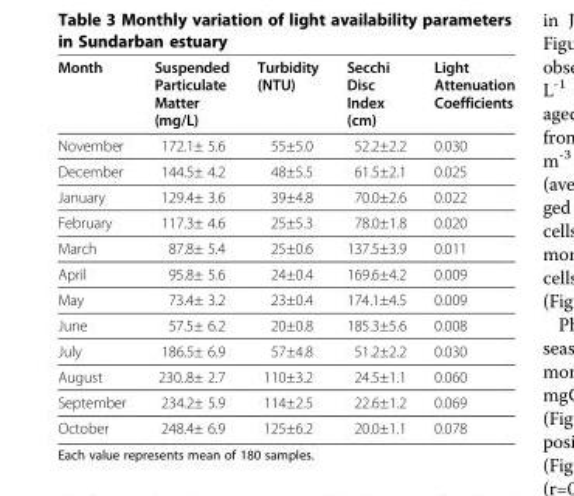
<table><thead><tr><td>Month</td><td>Suspended Particulate Matter (mg/L)</td><td>Turbidity (NTU)</td><td>Secchi Disc Index (cm)</td><td>Light Attenuation Coefficients</td></tr></thead><tbody><tr><td>November</td><td>172.1± 5.6</td><td>55±5.0</td><td>52.2±2.2</td><td>0.030</td></tr><tr><td>December</td><td>144.5± 4.2</td><td>48±5.5</td><td>61.5±2.1</td><td>0.025</td></tr><tr><td>January</td><td>129.4± 3.6</td><td>39±4.8</td><td>70.0±2.6</td><td>0.022</td></tr><tr><td>February</td><td>117.3± 4.6</td><td>25±5.3</td><td>78.0±1.8</td><td>0.020</td></tr><tr><td>March</td><td>87.8± 5.4</td><td>25±0.6</td><td>137.5±3.9</td><td>0.011</td></tr><tr><td>April</td><td>95.8± 5.6</td><td>24±0.4</td><td>169.6±4.2</td><td>0.009</td></tr><tr><td>May</td><td>73.4± 3.2</td><td>23±0.4</td><td>174.1±4.5</td><td>0.009</td></tr><tr><td>June</td><td>57.5± 6.2</td><td>20±0.8</td><td>185.3±5.6</td><td>0.008</td></tr><tr><td>July</td><td>186.5± 6.9</td><td>57±4.8</td><td>51.2±2.2</td><td>0.030</td></tr><tr><td>August</td><td>230..8± 2.7</td><td>110±3.2</td><td>24.5±1.1</td><td>0.060</td></tr><tr><td>September</td><td>234.2± 5.9</td><td>114±2.5</td><td>22.6±1.2</td><td>0.069</td></tr><tr><td>October</td><td>248.4± 6.9</td><td>125±6.2</td><td>20.0±1.1</td><td>0.078</td></tr></tbody></table>